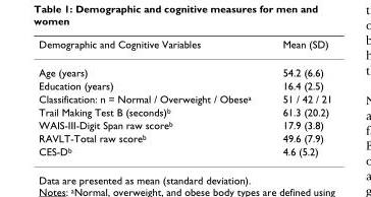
<table><thead><tr><td>Demographic and Cognitive Variables</td><td>Mean (SD)</td></tr></thead><tbody><tr><td>Age (years)</td><td>54.2 (6.6)</td></tr><tr><td>Education (years)</td><td>16.4 (2.5)</td></tr><tr><td>Classification: n = Normal / Overweight / Obese<sup>a</sup></td><td>51 / 42 / 21</td></tr><tr><td>Trail Making Test B (seconds)<sup>b</sup></td><td>61.3 (20.2)</td></tr><tr><td>WAIS-III-Digit Span raw score<sup>b</sup></td><td>17.9 (3.8)</td></tr><tr><td>RAVLT-Total raw score<sup>b</sup></td><td>49.6 (7.9)</td></tr><tr><td>CES-D<sup>b</sup></td><td>4.6 (5.2)</td></tr></tbody></table>